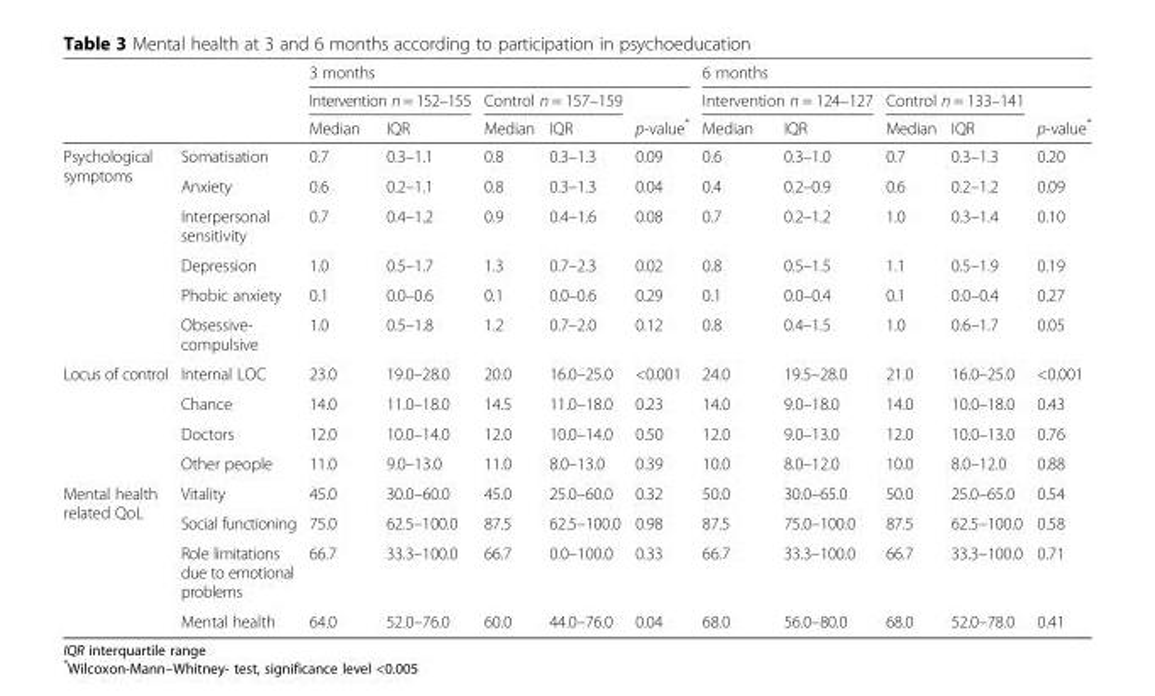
<table><thead><tr><td rowspan="3"></td><td rowspan="3"></td><td colspan="5">3 months</td><td colspan="5">6 months</td></tr><tr><td colspan="2">Intervention n = 152–155</td><td colspan="2">Control n = 157–159</td><td rowspan="2">p-value*</td><td colspan="2">Intervention n = 124–127</td><td colspan="2">Control n = 133–141</td><td rowspan="2">p-value*</td></tr><tr><td>Median</td><td>IQR</td><td>Median</td><td>IQR</td><td>Median</td><td>IQR</td><td>Median</td><td>IQR</td></tr></thead><tbody><tr><td rowspan="6">Psychological symptoms</td><td>Somatisation</td><td>0.7</td><td>0.3–1.1</td><td>0.8</td><td>0.3–1.3</td><td>0.09</td><td>0.6</td><td>0.3–1.0</td><td>0.7</td><td>0.3–1.3</td><td>0.20</td></tr><tr><td>Anxiety</td><td>0.6</td><td>0.2–1.1</td><td>0.8</td><td>0.3–1.3</td><td>0.04</td><td>0.4</td><td>0.2–0.9</td><td>0.6</td><td>0.2–1.2</td><td>0.09</td></tr><tr><td>Interpersonal sensitivity</td><td>0.7</td><td>0.4–1.2</td><td>0.9</td><td>0.4–1.6</td><td>0.08</td><td>0.7</td><td>0.2–1.2</td><td>1.0</td><td>0.3–1.4</td><td>0.10</td></tr><tr><td>Depression</td><td>1.0</td><td>0.5–1.7</td><td>1.3</td><td>0.7–2.3</td><td>0.02</td><td>0.8</td><td>0.5–1.5</td><td>1.1</td><td>0.5–1.9</td><td>0.19</td></tr><tr><td>Phobic anxiety</td><td>0.1</td><td>0.0–0.6</td><td>0.1</td><td>0.0–0.6</td><td>0.29</td><td>0.1</td><td>0.0–0.4</td><td>0.1</td><td>0.0–0.4</td><td>0.27</td></tr><tr><td>Obsessive- compulsive</td><td>1.0</td><td>0.5–1.8</td><td>1.2</td><td>0.7–2.0</td><td>0.12</td><td>0.8</td><td>0.4–1.5</td><td>1.0</td><td>0.6–1.7</td><td>0.05</td></tr><tr><td rowspan="4">Locus of control</td><td>Internal LOC</td><td>23.0</td><td>19.0–28.0</td><td>20.0</td><td>16.0–25.0</td><td>&lt;0.001</td><td>24.0</td><td>19.5–28.0</td><td>21.0</td><td>16.0–25.0</td><td>&lt;0.001</td></tr><tr><td>Chance</td><td>14.0</td><td>11.0–18.0</td><td>14.5</td><td>11.0–18.0</td><td>0.23</td><td>14.0</td><td>9.0–18.0</td><td>14.0</td><td>10.0–18.0</td><td>0.43</td></tr><tr><td>Doctors</td><td>12.0</td><td>10.0–14.0</td><td>12.0</td><td>10.0–14.0</td><td>0.50</td><td>12.0</td><td>9.0–13.0</td><td>12.0</td><td>10.0–13.0</td><td>0.76</td></tr><tr><td>Other people</td><td>11.0</td><td>9.0–13.0</td><td>11.0</td><td>8.0–13.0</td><td>0.39</td><td>10.0</td><td>8.0–12.0</td><td>10.0</td><td>8.0–12.0</td><td>0.88</td></tr><tr><td rowspan="4">Mental health related QoL</td><td>Vitality</td><td>45.0</td><td>30.0–60.0</td><td>45.0</td><td>25.0–60.0</td><td>0.32</td><td>50.0</td><td>30.0–65.0</td><td>50.0</td><td>25.0–65.0</td><td>0.54</td></tr><tr><td>Social functioning</td><td>75.0</td><td>62.5–100.0</td><td>87.5</td><td>62.5–100.0</td><td>0.98</td><td>87.5</td><td>75.0–100.0</td><td>87.5</td><td>62.5–100.0</td><td>0.58</td></tr><tr><td>Role limitations due to emotional problems</td><td>66.7</td><td>33.3–100.0</td><td>66.7</td><td>0.0–100.0</td><td>0.33</td><td>66.7</td><td>33.3–100.0</td><td>66.7</td><td>33.3–100.0</td><td>0.71</td></tr><tr><td>Mental health</td><td>64.0</td><td>52.0–76.0</td><td>60.0</td><td>44.0–76.0</td><td>0.04</td><td>68.0</td><td>56.0–80.0</td><td>68.0</td><td>52.0–78.0</td><td>0.41</td></tr></tbody></table>